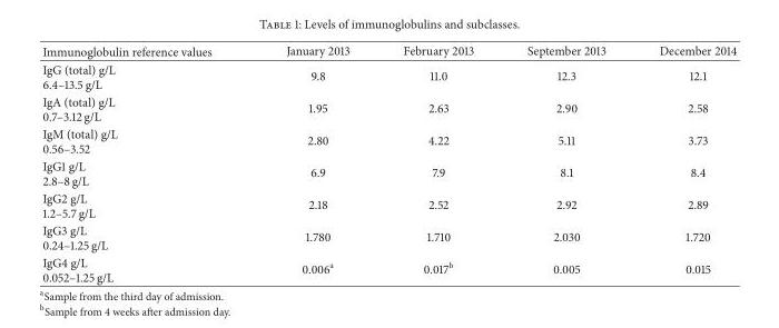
<table><thead><tr><td>Immunoglobulin reference values</td><td>January 2013</td><td>February 2013</td><td>September 2013</td><td>December 2014</td></tr></thead><tbody><tr><td>IgG (total) g/L 6.4–13.5 g/L</td><td>9.8</td><td>11.0</td><td>12.3</td><td>12.1</td></tr><tr><td>IgA (total) g/L 0.7–3.12 g/L</td><td>1.95</td><td>2.63</td><td>2.90</td><td>2.58</td></tr><tr><td>IgM (total) g/L 0.56–3.52</td><td>2.80</td><td>4.22</td><td>5.11</td><td>3.73</td></tr><tr><td>IgG1 g/L 2.8–8 g/L</td><td>6.9</td><td>7.9</td><td>8.1</td><td>8.4</td></tr><tr><td>IgG2 g/L 1.2–5.7 g/L</td><td>2.18</td><td>2.52</td><td>2.92</td><td>2.89</td></tr><tr><td>IgG3 g/L 0.24–1.25 g/L</td><td>1.780</td><td>1.710</td><td>2.030</td><td>1.720</td></tr><tr><td>IgG4 g/L 0.052–1.25 g/L</td><td>0.006<sup>a</sup></td><td>0.017<sup>b</sup></td><td>0.005</td><td>0.015</td></tr></tbody></table>